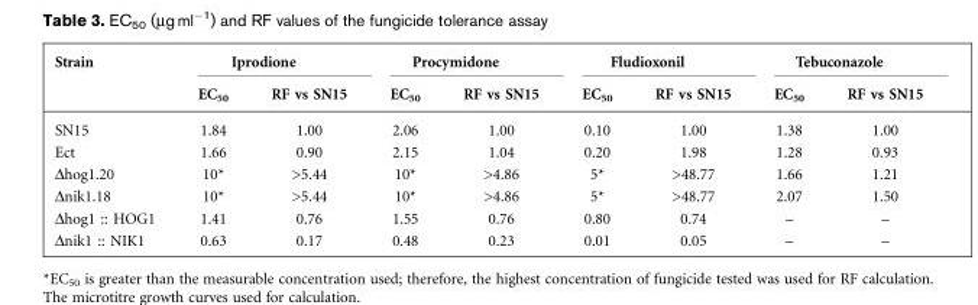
<table><thead><tr><td rowspan="2">Strain</td><td colspan="2">Iprodione</td><td colspan="2">Procymidone</td><td colspan="2">Fludioxonil</td><td colspan="2">Tebuconazole</td></tr><tr><td>EC<sub>50</sub></td><td>RF vs SN15</td><td>EC<sub>50</sub></td><td>RF vs SN15</td><td>EC<sub>50</sub></td><td>RF vs SN15</td><td>EC<sub>50</sub></td><td>RF vs SN15</td></tr></thead><tbody><tr><td>SN15</td><td>1.84</td><td>1.00</td><td>2.06</td><td>1.00</td><td>0.10</td><td>1.00</td><td>1.38</td><td>1.00</td></tr><tr><td>Ect</td><td>1.66</td><td>0.90</td><td>2.15</td><td>1.04</td><td>0.20</td><td>1.98</td><td>1.28</td><td>0.93</td></tr><tr><td>Δhog1.20</td><td>10*</td><td>&gt;5.44</td><td>10*</td><td>&gt;4.86</td><td>5*</td><td>&gt;48.77</td><td>1.66</td><td>1.21</td></tr><tr><td>Δnik1.18</td><td>10*</td><td>&gt;5.44</td><td>10*</td><td>&gt;4.86</td><td>5*</td><td>&gt;48.77</td><td>2.07</td><td>1.50</td></tr><tr><td>Δhog1 :: HOG1</td><td>1.41</td><td>0.76</td><td>1.55</td><td>0.76</td><td>0.80</td><td>0.74</td><td>–</td><td>–</td></tr><tr><td>Δnik1 :: NIK1</td><td>0.63</td><td>0.17</td><td>0.48</td><td>0.23</td><td>0.01</td><td>0.05</td><td>–</td><td>–</td></tr></tbody></table>